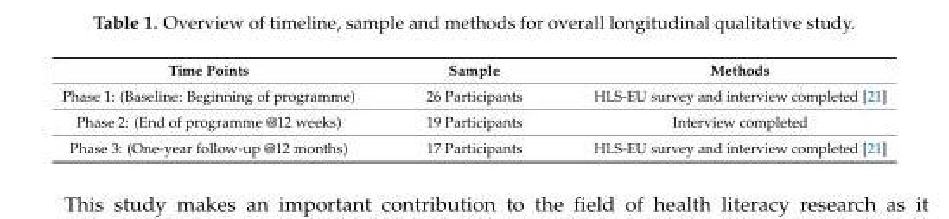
<table><thead><tr><td>Time Points</td><td>Sample</td><td>Methods</td></tr></thead><tbody><tr><td>Phase 1: (Baseline: Beginning of programme)</td><td>26 Participants</td><td>HLS-EU survey and interview completed [21]</td></tr><tr><td>Phase 2: (End of programme @12 weeks)</td><td>19 Participants</td><td>Interview completed</td></tr><tr><td>Phase 3: (One-year follow-up @12 months)</td><td>17 Participants</td><td>HLS-EU survey and interview completed [21]</td></tr></tbody></table>